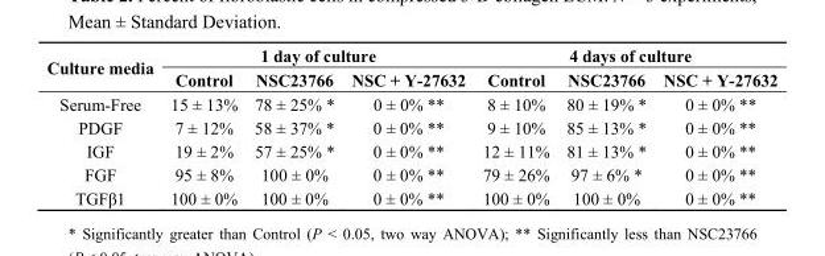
<table><thead><tr><td rowspan="2">Culture media</td><td colspan="3">1 day of culture</td><td colspan="3">4 days of culture</td></tr><tr><td>Control</td><td>NSC23766</td><td>NSC + Y-27632</td><td>Control</td><td>NSC23766</td><td>NSC + Y-27632</td></tr></thead><tbody><tr><td>Serum-Free</td><td>15 ± 13%</td><td>78 ± 25% *</td><td>0 ± 0% **</td><td>8 ± 10%</td><td>80 ± 19% *</td><td>0 ± 0% **</td></tr><tr><td>PDGF</td><td>7 ± 12%</td><td>58 ± 37% *</td><td>0 ± 0% **</td><td>9 ± 10%</td><td>85 ± 13% *</td><td>0 ± 0% **</td></tr><tr><td>IGF</td><td>19 ± 2%</td><td>57 ± 25% *</td><td>0 ± 0% **</td><td>12 ± 11%</td><td>81 ± 13% *</td><td>0 ± 0% **</td></tr><tr><td>FGF</td><td>95 ± 8%</td><td>100 ± 0%</td><td>0 ± 0% **</td><td>79 ± 26%</td><td>97 ± 6% *</td><td>0 ± 0% **</td></tr><tr><td>TGFβ1</td><td>100 ± 0%</td><td>100 ± 0%</td><td>0 ± 0% **</td><td>100 ± 0%</td><td>100 ± 0%</td><td>0 ± 0% **</td></tr></tbody></table>